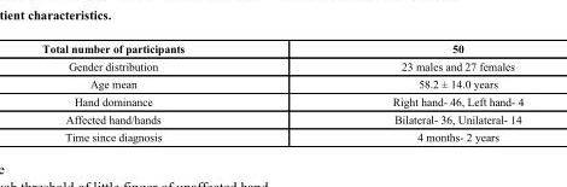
<table><thead><tr><td>Total number of participants</td><td>50</td></tr></thead><tbody><tr><td>Gender distribution</td><td>23 males and 27 females</td></tr><tr><td>Age mean</td><td>58.2 ± 14.0 years</td></tr><tr><td>Hand dominance</td><td>Right hand- 46, Left hand- 4</td></tr><tr><td>Affected hand/hands</td><td>Bilateral- 36, Unilateral- 14</td></tr><tr><td>Time since diagnosis</td><td>4 months- 2 years</td></tr></tbody></table>